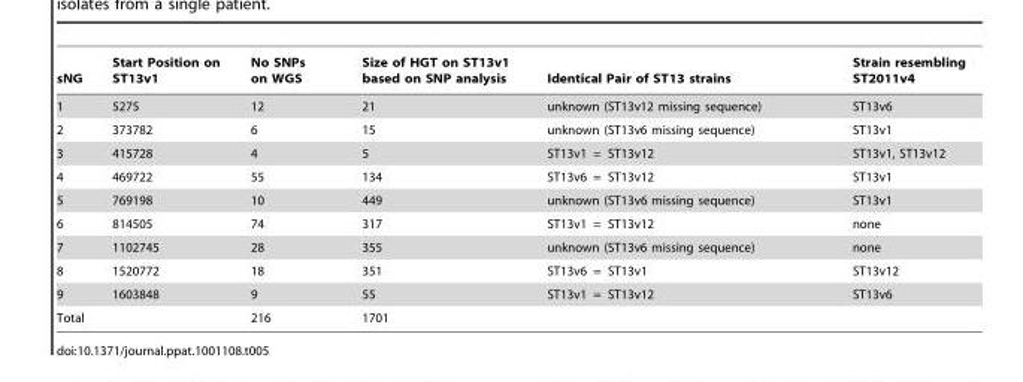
<table><thead><tr><td>sNG</td><td>Start Position on ST13v1</td><td>No SNPs on WGS</td><td>Size of HGT on ST13v1 based on SNP analysis</td><td>Identical Pair of ST13 strains</td><td>Strain resembling ST2011v4</td></tr></thead><tbody><tr><td>1</td><td>5275</td><td>12</td><td>21</td><td>unknown (ST13v12 missing sequence)</td><td>ST13v6</td></tr><tr><td>2</td><td>373782</td><td>6</td><td>15</td><td>unknown (ST13v6 missing sequence)</td><td>ST13v1</td></tr><tr><td>3</td><td>415728</td><td>4</td><td>5</td><td>ST13v1 = ST13v12</td><td>ST13v1, ST13v12</td></tr><tr><td>4</td><td>469722</td><td>55</td><td>134</td><td>ST13v6 = ST13v12</td><td>ST13v1</td></tr><tr><td>5</td><td>769198</td><td>10</td><td>449</td><td>unknown (ST13v6 missing sequence)</td><td>ST13v1</td></tr><tr><td>6</td><td>814505</td><td>74</td><td>317</td><td>ST13v1 = ST13v12</td><td>none</td></tr><tr><td>7</td><td>1102745</td><td>28</td><td>355</td><td>unknown (ST13v6 missing sequence)</td><td>none</td></tr><tr><td>8</td><td>1520772</td><td>18</td><td>351</td><td>ST13v6 = ST13v1</td><td>ST13v12</td></tr><tr><td>9</td><td>1603848</td><td>9</td><td>55</td><td>ST13v1 = ST13v12</td><td>ST13v6</td></tr><tr><td>Total</td><td></td><td>216</td><td>1701</td><td></td><td></td></tr></tbody></table>